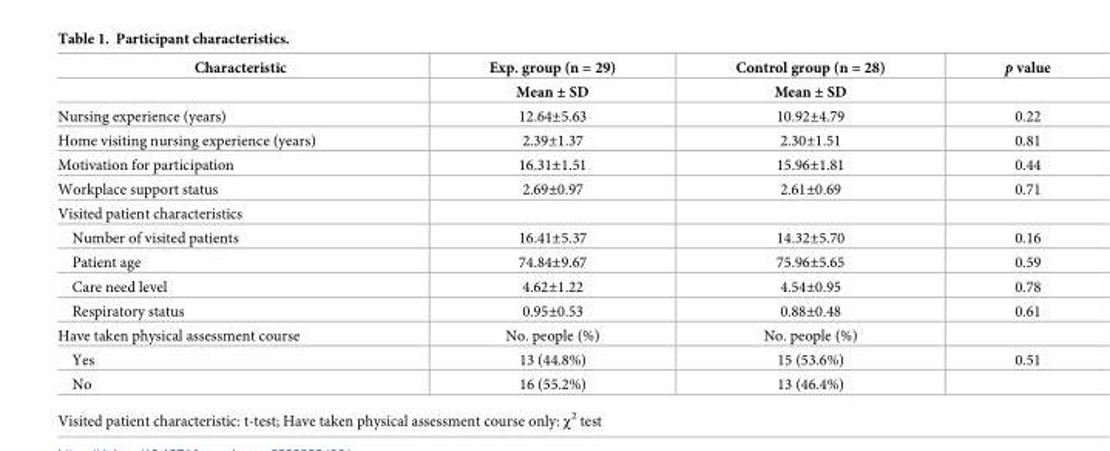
<table><thead><tr><td rowspan="2">Characteristic</td><td rowspan="2">Exp. group (n = 29) Mean ± SD</td><td rowspan="2">Control group (n = 28) Mean ± SD</td><td rowspan="2">p value</td></tr><tr></tr></thead><tbody><tr><td>Nursing experience (years)</td><td>12.64±5.63</td><td>10.92±4.79</td><td>0.22</td></tr><tr><td>Home visiting nursing experience (years)</td><td>2.39±1.37</td><td>2.30±1.51</td><td>0.81</td></tr><tr><td>Motivation for participation</td><td>16.31±1.51</td><td>15.96±1.81</td><td>0.44</td></tr><tr><td>Workplace support status</td><td>2.69±0.97</td><td>2.61±0.69</td><td>0.71</td></tr><tr><td colspan="4">Visited patient characteristics</td></tr><tr><td>Number of visited patients</td><td>16.41±5.37</td><td>14.32±5.70</td><td>0.16</td></tr><tr><td>Patient age</td><td>74.84±9.67</td><td>75.96±5.65</td><td>0.59</td></tr><tr><td>Care need level</td><td>4.62±1.22</td><td>4.54±0.95</td><td>0.78</td></tr><tr><td>Respiratory status</td><td>0.95±0.53</td><td>0.88±0.48</td><td>0.61</td></tr><tr><td>Have taken physical assessment course</td><td>No. people (%)</td><td>No. people (%)</td><td></td></tr><tr><td>Yes</td><td>13 (44.8%)</td><td>15 (53.6%)</td><td>0.51</td></tr><tr><td>No</td><td>16 (55.2%)</td><td>13 (46.4%)</td><td></td></tr></tbody></table>